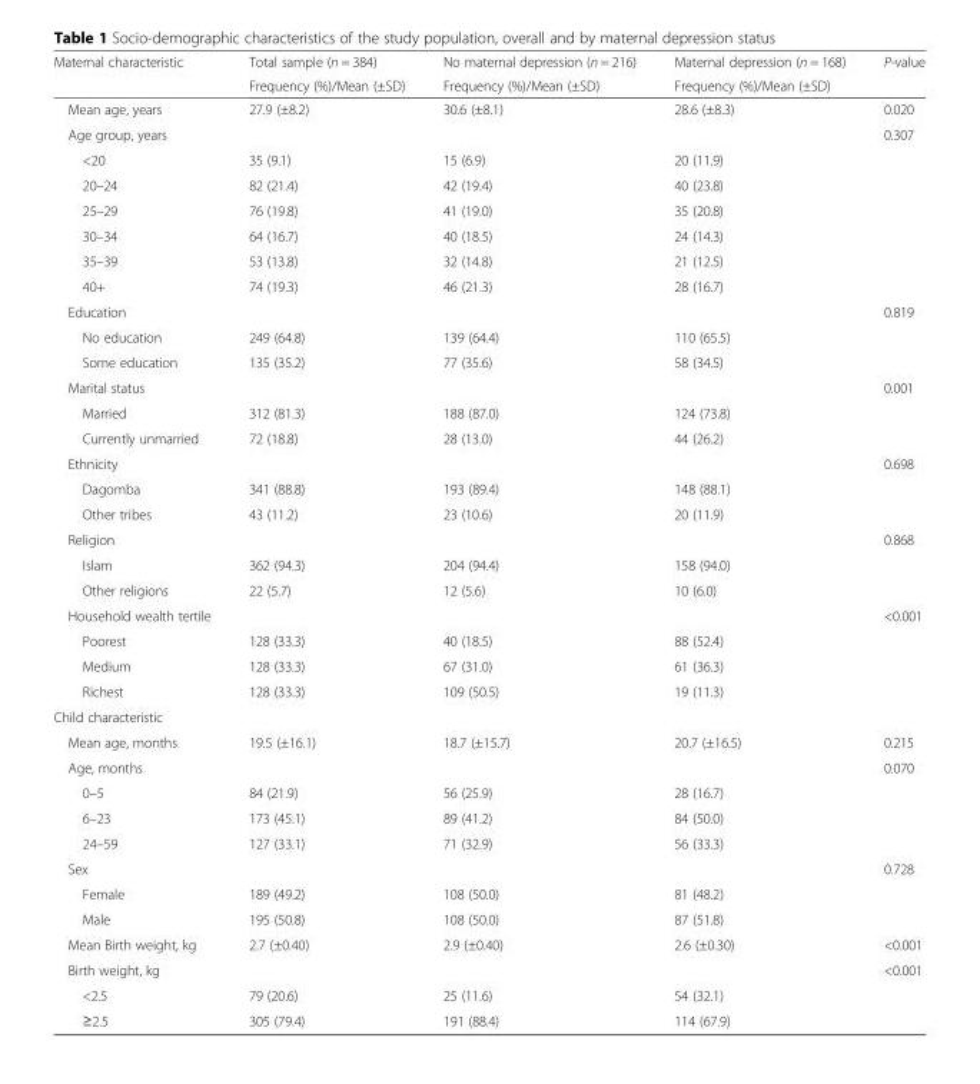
<table><thead><tr><td rowspan="2">Maternal characteristic</td><td rowspan="2">Total sample (n = 384) Frequency (%)/Mean (±SD)</td><td rowspan="2">No maternal depression (n = 216) Frequency (%)/Mean (±SD)</td><td rowspan="2">Maternal depression (n = 168) Frequency (%)/Mean (±SD)</td><td rowspan="2">P-value</td></tr><tr></tr></thead><tbody><tr><td>Mean age, years</td><td>27.9 (±8.2)</td><td>30.6 (±8.1)</td><td>28.6 (±8.3)</td><td>0.020</td></tr><tr><td>Age group, years</td><td></td><td></td><td></td><td>0.307</td></tr><tr><td>&lt;20</td><td>35 (9.1)</td><td>15 (6.9)</td><td>20 (11.9)</td><td></td></tr><tr><td>20–24</td><td>82 (21.4)</td><td>42 (19.4)</td><td>40 (23.8)</td><td></td></tr><tr><td>25–29</td><td>76 (19.8)</td><td>41 (19.0)</td><td>35 (20.8)</td><td></td></tr><tr><td>30–34</td><td>64 (16.7)</td><td>40 (18.5)</td><td>24 (14.3)</td><td></td></tr><tr><td>35–39</td><td>53 (13.8)</td><td>32 (14.8)</td><td>21 (12.5)</td><td></td></tr><tr><td>40+</td><td>74 (19.3)</td><td>46 (21.3)</td><td>28 (16.7)</td><td></td></tr><tr><td>Education</td><td></td><td></td><td></td><td>0.819</td></tr><tr><td>No education</td><td>249 (64.8)</td><td>139 (64.4)</td><td>110 (65.5)</td><td></td></tr><tr><td>Some education</td><td>135 (35.2)</td><td>77 (35.6)</td><td>58 (34.5)</td><td></td></tr><tr><td>Marital status</td><td></td><td></td><td></td><td>0.001</td></tr><tr><td>Married</td><td>312 (81.3)</td><td>188 (87.0)</td><td>124 (73.8)</td><td></td></tr><tr><td>Currently unmarried</td><td>72 (18.8)</td><td>28 (13.0)</td><td>44 (26.2)</td><td></td></tr><tr><td>Ethnicity</td><td></td><td></td><td></td><td>0.698</td></tr><tr><td>Dagomba</td><td>341 (88.8)</td><td>193 (89.4)</td><td>148 (88.1)</td><td></td></tr><tr><td>Other tribes</td><td>43 (11.2)</td><td>23 (10.6)</td><td>20 (11.9)</td><td></td></tr><tr><td>Religion</td><td></td><td></td><td></td><td>0.868</td></tr><tr><td>Islam</td><td>362 (94.3)</td><td>204 (94.4)</td><td>158 (94.0)</td><td></td></tr><tr><td>Other religions</td><td>22 (5.7)</td><td>12 (5.6)</td><td>10 (6.0)</td><td></td></tr><tr><td>Household wealth tertile</td><td></td><td></td><td></td><td>&lt;0.001</td></tr><tr><td>Poorest</td><td>128 (33.3)</td><td>40 (18.5)</td><td>88 (52.4)</td><td></td></tr><tr><td>Medium</td><td>128 (33.3)</td><td>67 (31.0)</td><td>61 (36.3)</td><td></td></tr><tr><td>Richest</td><td>128 (33.3)</td><td>109 (50.5)</td><td>19 (11.3)</td><td></td></tr><tr><td colspan="5">Child characteristic</td></tr><tr><td>Mean age, months</td><td>19.5 (±16.1)</td><td>18.7 (±15.7)</td><td>20.7 (±16.5)</td><td>0.215</td></tr><tr><td>Age, months</td><td></td><td></td><td></td><td>0.070</td></tr><tr><td>0–5</td><td>84 (21.9)</td><td>56 (25.9)</td><td>28 (16.7)</td><td></td></tr><tr><td>6–23</td><td>173 (45.1)</td><td>89 (41.2)</td><td>84 (50.0)</td><td></td></tr><tr><td>24–59</td><td>127 (33.1)</td><td>71 (32.9)</td><td>56 (33.3)</td><td></td></tr><tr><td>Sex</td><td></td><td></td><td></td><td>0.728</td></tr><tr><td>Female</td><td>189 (49.2)</td><td>108 (50.0)</td><td>81 (48.2)</td><td></td></tr><tr><td>Male</td><td>195 (50.8)</td><td>108 (50.0)</td><td>87 (51.8)</td><td></td></tr><tr><td>Mean Birth weight, kg</td><td>2.7 (±0.40)</td><td>2.9 (±0.40)</td><td>2.6 (±0.30)</td><td>&lt;0.001</td></tr><tr><td>Birth weight, kg</td><td></td><td></td><td></td><td>&lt;0.001</td></tr><tr><td>&lt;2.5</td><td>79 (20.6)</td><td>25 (11.6)</td><td>54 (32.1)</td><td></td></tr><tr><td>≥2.5</td><td>305 (79.4)</td><td>191 (88.4)</td><td>114 (67.9)</td><td></td></tr></tbody></table>